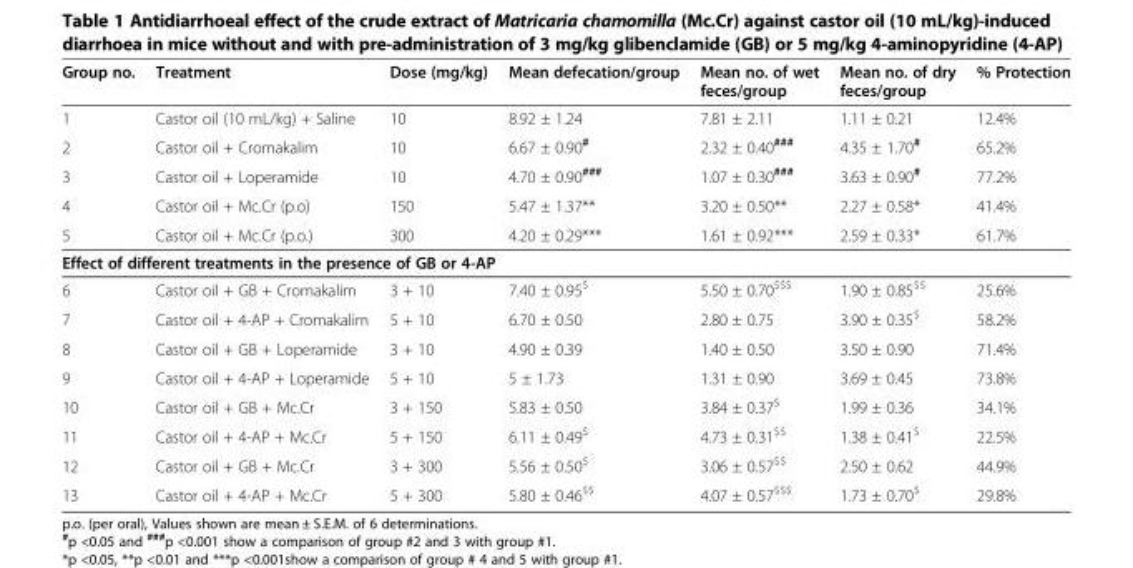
<table><thead><tr><td>Group no.</td><td>Treatment</td><td>Dose (mg/kg)</td><td>Mean defecation/group</td><td>Mean no. of wet feces/group</td><td>Mean no. of dry feces/group</td><td>% Protection</td></tr></thead><tbody><tr><td>1</td><td>Castor oil (10 mL/kg) + Saline</td><td>10</td><td>8.92 ± 1.24</td><td>7.81 ± 2.11</td><td>1.11 ± 0.21</td><td>12.4%</td></tr><tr><td>2</td><td>Castor oil + Cromakalim</td><td>10</td><td>6.67 ± 0.90<sup>#</sup></td><td>2.32 ± 0.40<sup>###</sup></td><td>4.35 ± 1.70<sup>#</sup></td><td>65.2%</td></tr><tr><td>3</td><td>Castor oil + Loperamide</td><td>10</td><td>4.70 ± 0.90<sup>###</sup></td><td>1.07 ± 0.30<sup>###</sup></td><td>3.63 ± 0.90<sup>#</sup></td><td>77.2%</td></tr><tr><td>4</td><td>Castor oil + Mc.Cr (p.o)</td><td>150</td><td>5.47 ± 1.37**</td><td>3.20 ± 0.50**</td><td>2.27 ± 0.58*</td><td>41.4%</td></tr><tr><td>5</td><td>Castor oil + Mc.Cr (p.o.)</td><td>300</td><td>4.20 ± 0.29***</td><td>1.61 ± 0.92***</td><td>2.59 ± 0.33*</td><td>61.7%</td></tr><tr><td colspan="7">Effect of different treatments in the presence of GB or 4-AP</td></tr><tr><td>6</td><td>Castor oil + GB + Cromakalim</td><td>3 + 10</td><td>7.40 ± 0.95<sup>$</sup></td><td>5.50 ± 0.70<sup>$$$</sup></td><td>1.90 ± 0.85<sup>$$</sup></td><td>25.6%</td></tr><tr><td>7</td><td>Castor oil + 4-AP + Cromakalim</td><td>5 + 10</td><td>6.70 ± 0.50</td><td>2.80 ± 0.75</td><td>3.90 ± 0.35<sup>$</sup></td><td>58.2%</td></tr><tr><td>8</td><td>Castor oil + GB + Loperamide</td><td>3 + 10</td><td>4.90 ± 0.39</td><td>1.40 ± 0.50</td><td>3.50 ± 0.90</td><td>71.4%</td></tr><tr><td>9</td><td>Castor oil + 4-AP + Loperamide</td><td>5 + 10</td><td>5 ± 1.73</td><td>1.31 ± 0.90</td><td>3.69 ± 0.45</td><td>73.8%</td></tr><tr><td>10</td><td>Castor oil + GB + Mc.Cr</td><td>3 + 150</td><td>5.83 ± 0.50</td><td>3.84 ± 0.37<sup>$</sup></td><td>1.99 ± 0.36</td><td>34.1%</td></tr><tr><td>11</td><td>Castor oil + 4-AP + Mc.Cr</td><td>5 + 150</td><td>6.11 ± 0.49<sup>$</sup></td><td>4.73 ± 0.31<sup>$$</sup></td><td>1.38 ± 0.41<sup>$</sup></td><td>22.5%</td></tr><tr><td>12</td><td>Castor oil + GB + Mc.Cr</td><td>3 + 300</td><td>5.56 ± 0.50<sup>$</sup></td><td>3.06 ± 0.57<sup>$$</sup></td><td>2.50 ± 0.62</td><td>44.9%</td></tr><tr><td>13</td><td>Castor oil + 4-AP + Mc.Cr</td><td>5 + 300</td><td>5.80 ± 0.46<sup>$$</sup></td><td>4.07 ± 0.57<sup>$$$</sup></td><td>1.73 ± 0.70<sup>$</sup></td><td>29.8%</td></tr></tbody></table>